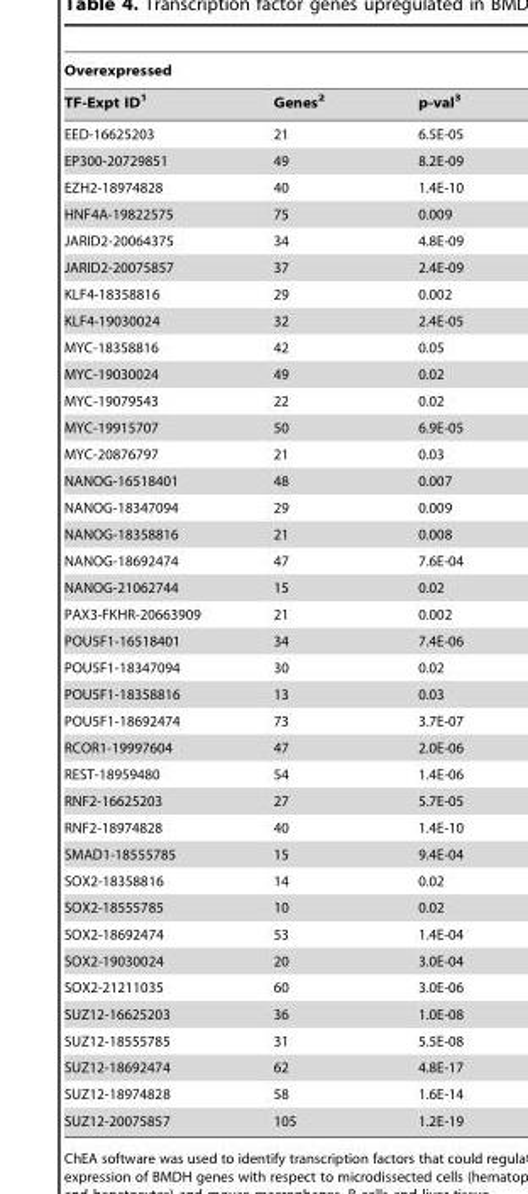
<table><thead><tr><td colspan="3">Overexpressed</td></tr><tr><td>TF-Expt ID<sup>1</sup></td><td>Genes<sup>2</sup></td><td>p-val<sup>3</sup></td></tr></thead><tbody><tr><td>EED-16625203</td><td>21</td><td>6.5E-05</td></tr><tr><td>EP300-20729851</td><td>49</td><td>8.2E-09</td></tr><tr><td>EZH2-18974828</td><td>40</td><td>1.4E-10</td></tr><tr><td>HNF4A-19822575</td><td>75</td><td>0.009</td></tr><tr><td>JARID2-20064375</td><td>34</td><td>4.8E-09</td></tr><tr><td>JARID2-20075857</td><td>37</td><td>2.4E-09</td></tr><tr><td>KLF4-18358816</td><td>29</td><td>0.002</td></tr><tr><td>KLF4-19030024</td><td>32</td><td>2.4E-05</td></tr><tr><td>MYC-18358816</td><td>42</td><td>0.05</td></tr><tr><td>MYC-19030024</td><td>49</td><td>0.02</td></tr><tr><td>MYC-19079543</td><td>22</td><td>0.02</td></tr><tr><td>MYC-19915707</td><td>50</td><td>6.9E-05</td></tr><tr><td>MYC-20876797</td><td>21</td><td>0.03</td></tr><tr><td>NANOG-16518401</td><td>48</td><td>0.007</td></tr><tr><td>NANOG-18347094</td><td>29</td><td>0.009</td></tr><tr><td>NANOG-18358816</td><td>21</td><td>0.008</td></tr><tr><td>NANOG-18692474</td><td>47</td><td>7.6E-04</td></tr><tr><td>NANOG-21062744</td><td>15</td><td>0.02</td></tr><tr><td>PAX3-FKHR-20663909</td><td>21</td><td>0.002</td></tr><tr><td>POU5F1-16518401</td><td>34</td><td>7.4E-06</td></tr><tr><td>POU5F1-18347094</td><td>30</td><td>0.02</td></tr><tr><td>POU5F1-18358816</td><td>13</td><td>0.03</td></tr><tr><td>POU5F1-18692474</td><td>73</td><td>3.7E-07</td></tr><tr><td>RCOR1-19997604</td><td>47</td><td>2.0E-06</td></tr><tr><td>REST-18959480</td><td>54</td><td>1.4E-06</td></tr><tr><td>RNF2-16625203</td><td>27</td><td>5.7E-05</td></tr><tr><td>RNF2-18974828</td><td>40</td><td>1.4E-10</td></tr><tr><td>SMAD1-18555785</td><td>15</td><td>9.4E-04</td></tr><tr><td>SOX2-18358816</td><td>14</td><td>0.02</td></tr><tr><td>SOX2-18555785</td><td>10</td><td>0.02</td></tr><tr><td>SOX2-18692474</td><td>53</td><td>1.4E-04</td></tr><tr><td>SOX2-19030024</td><td>20</td><td>3.0E-04</td></tr><tr><td>SOX2-21211035</td><td>60</td><td>3.0E-06</td></tr><tr><td>SUZ12-16625203</td><td>36</td><td>1.0E-08</td></tr><tr><td>SUZ12-18555785</td><td>31</td><td>5.5E-08</td></tr><tr><td>SUZ12-18692474</td><td>62</td><td>4.8E-17</td></tr><tr><td>SUZ12-18974828</td><td>58</td><td>1.6E-14</td></tr><tr><td>SUZ12-20075857</td><td>105</td><td>1.2E-19</td></tr></tbody></table>